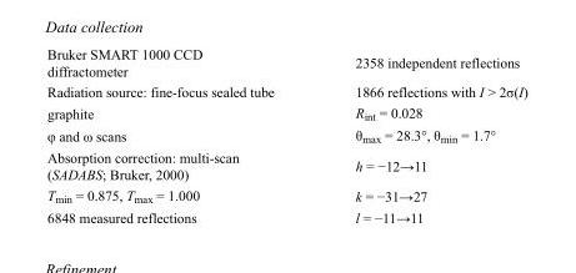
<table><tbody><tr><td>Bruker SMART 1000 CCD diffractometer</td><td>2358 independent reflections</td></tr><tr><td>Radiation source: fine-focus sealed tube</td><td>1866 reflections with I &gt; 2σ(I)</td></tr><tr><td>graphite</td><td>R<sub>int</sub> = 0.028</td></tr><tr><td>φ and ω scans</td><td>θ<sub>max</sub> = 28.3°, θ<sub>min</sub> = 1.7°</td></tr><tr><td>Absorption correction: multi-scan (SADABS; Bruker, 2000)</td><td>h = −12→11</td></tr><tr><td>T<sub>min</sub> = 0.875, T<sub>max</sub> = 1.000</td><td>k = −31→27</td></tr><tr><td>6848 measured reflections</td><td>l = −11→11</td></tr></tbody></table>